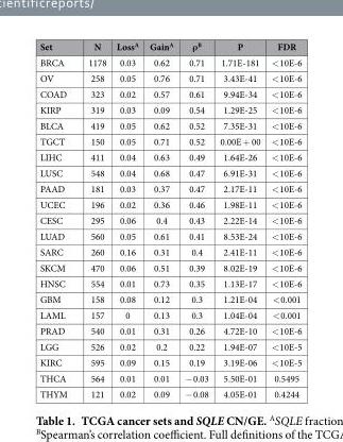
<table><thead><tr><td>Set</td><td>N</td><td>Loss<sup>A</sup></td><td>Gain<sup>A</sup></td><td>ρ<sup>B</sup></td><td>P</td><td>FDR</td></tr></thead><tbody><tr><td>BRCA</td><td>1178</td><td>0.03</td><td>0.62</td><td>0.71</td><td>1.71E-181</td><td>&lt; 10E-6</td></tr><tr><td>OV</td><td>258</td><td>0.05</td><td>0.76</td><td>0.71</td><td>3.43E-41</td><td>&lt; 10E-6</td></tr><tr><td>COAD</td><td>323</td><td>0.02</td><td>0.57</td><td>0.61</td><td>9.94E-34</td><td>&lt; 10E-6</td></tr><tr><td>KIRP</td><td>319</td><td>0.03</td><td>0.09</td><td>0.54</td><td>1.29E-25</td><td>&lt; 10E-6</td></tr><tr><td>BLCA</td><td>419</td><td>0.05</td><td>0.62</td><td>0.52</td><td>7.35E-31</td><td>&lt; 10E-6</td></tr><tr><td>TGCT</td><td>150</td><td>0.05</td><td>0.71</td><td>0.52</td><td>0.00E + 00</td><td>&lt; 10E-6</td></tr><tr><td>LIHC</td><td>411</td><td>0.04</td><td>0.63</td><td>0.49</td><td>1.64E-26</td><td>&lt; 10E-6</td></tr><tr><td>LUSC</td><td>548</td><td>0.04</td><td>0.68</td><td>0.47</td><td>6.91E-31</td><td>&lt; 10E-6</td></tr><tr><td>PAAD</td><td>181</td><td>0.03</td><td>0.37</td><td>0.47</td><td>2.17E-11</td><td>&lt; 10E-6</td></tr><tr><td>UCEC</td><td>196</td><td>0.02</td><td>0.36</td><td>0.46</td><td>1.98E-11</td><td>&lt; 10E-6</td></tr><tr><td>CESC</td><td>295</td><td>0.06</td><td>0.4</td><td>0.43</td><td>2.22E-14</td><td>&lt; 10E-6</td></tr><tr><td>LUAD</td><td>560</td><td>0.05</td><td>0.61</td><td>0.41</td><td>8.53E-24</td><td>&lt; 10E-6</td></tr><tr><td>SARC</td><td>260</td><td>0.16</td><td>0.31</td><td>0.4</td><td>2.41E-11</td><td>&lt; 10E-6</td></tr><tr><td>SKCM</td><td>470</td><td>0.06</td><td>0.51</td><td>0.39</td><td>8.02E-19</td><td>&lt; 10E-6</td></tr><tr><td>HNSC</td><td>554</td><td>0.01</td><td>0.73</td><td>0.35</td><td>1.13E-17</td><td>&lt; 10E-6</td></tr><tr><td>GBM</td><td>158</td><td>0.08</td><td>0.12</td><td>0.3</td><td>1.21E-04</td><td>&lt; 0.001</td></tr><tr><td>LAML</td><td>157</td><td>0</td><td>0.13</td><td>0.3</td><td>1.04E-04</td><td>&lt; 0.001</td></tr><tr><td>PRAD</td><td>540</td><td>0.01</td><td>0.31</td><td>0.26</td><td>4.72E-10</td><td>&lt; 10E-6</td></tr><tr><td>LGG</td><td>526</td><td>0.02</td><td>0.2</td><td>0.22</td><td>1.94E-07</td><td>&lt; 10E-5</td></tr><tr><td>KIRC</td><td>595</td><td>0.09</td><td>0.15</td><td>0.19</td><td>3.19E-06</td><td>&lt; 10E-5</td></tr><tr><td>THCA</td><td>564</td><td>0.01</td><td>0.01</td><td>− 0.03</td><td>5.50E-01</td><td>0.5495</td></tr><tr><td>THYM</td><td>121</td><td>0.02</td><td>0.09</td><td>− 0.08</td><td>4.05E-01</td><td>0.4244</td></tr></tbody></table>